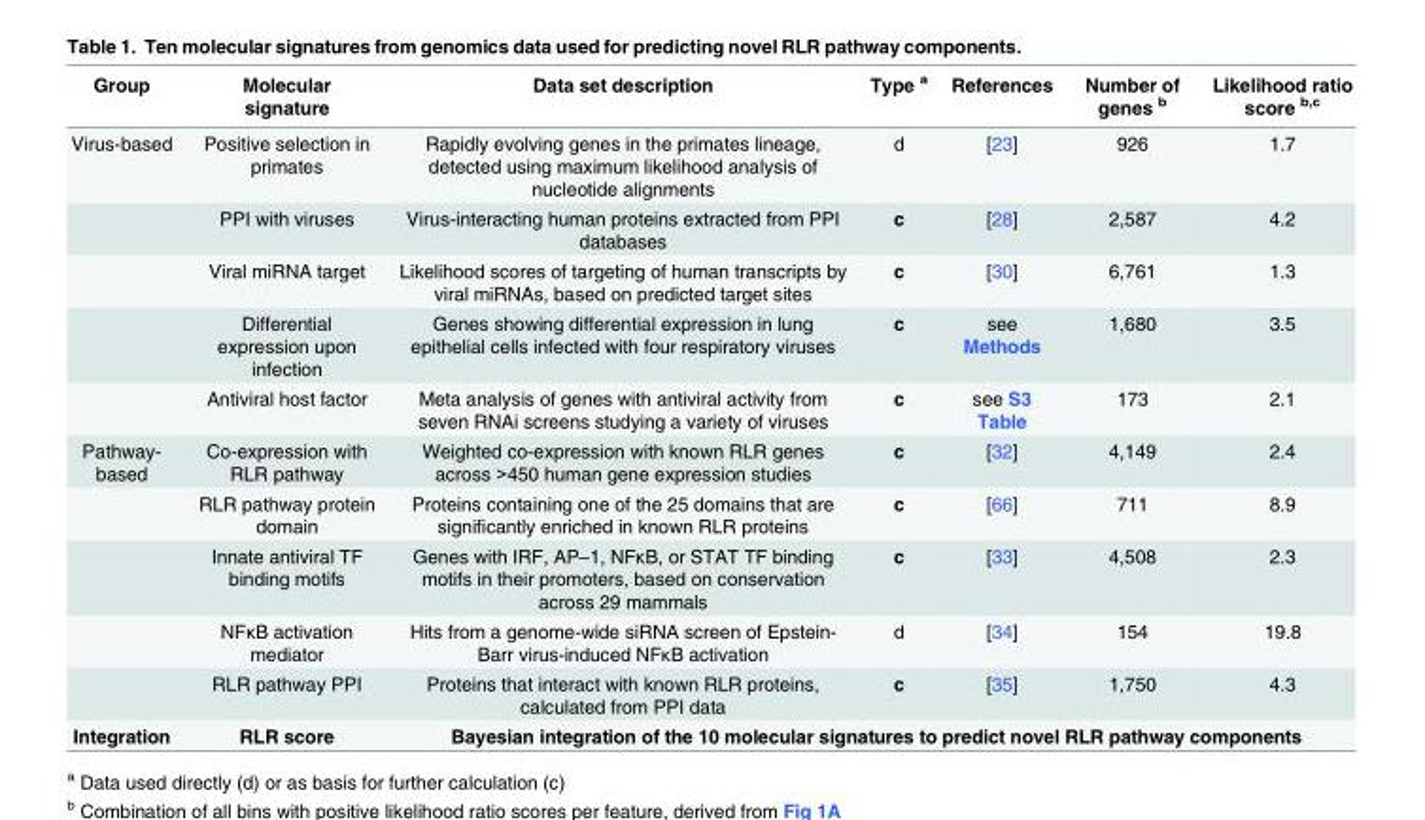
<table><thead><tr><td>Group</td><td>Molecular signature</td><td>Data set description</td><td>Type <sup>a</sup></td><td>References</td><td>Number of genes <sup>b</sup></td><td>Likelihood ratio score <sup>b,c</sup></td></tr></thead><tbody><tr><td rowspan="5">Virus-based</td><td>Positive selection in primates</td><td>Rapidly evolving genes in the primates lineage, detected using maximum likelihood analysis of nucleotide alignments</td><td>d</td><td>[23]</td><td>926</td><td>1.7</td></tr><tr><td>PPI with viruses</td><td>Virus-interacting human proteins extracted from PPI databases</td><td>c</td><td>[28]</td><td>2,587</td><td>4.2</td></tr><tr><td>Viral miRNA target</td><td>Likelihood scores of targeting of human transcripts by viral miRNAs, based on predicted target sites</td><td>c</td><td>[30]</td><td>6,761</td><td>1.3</td></tr><tr><td>Differential expression upon infection</td><td>Genes showing differential expression in lung epithelial cells infected with four respiratory viruses</td><td>c</td><td>see Methods</td><td>1,680</td><td>3.5</td></tr><tr><td>Antiviral host factor</td><td>Meta analysis of genes with antiviral activity from seven RNAi screens studying a variety of viruses</td><td>c</td><td>see S3 Table</td><td>173</td><td>2.1</td></tr><tr><td rowspan="5">Pathway- based</td><td>Co-expression with RLR pathway</td><td>Weighted co-expression with known RLR genes across &gt;450 human gene expression studies</td><td>c</td><td>[32]</td><td>4,149</td><td>2.4</td></tr><tr><td>RLR pathway protein domain</td><td>Proteins containing one of the 25 domains that are significantly enriched in known RLR proteins</td><td>c</td><td>[66]</td><td>711</td><td>8.9</td></tr><tr><td>Innate antiviral TF binding motifs</td><td>Genes with IRF, AP–1, NFκB, or STAT TF binding motifs in their promoters, based on conservation across 29 mammals</td><td>c</td><td>[33]</td><td>4,508</td><td>2.3</td></tr><tr><td>NFκB activation mediator</td><td>Hits from a genome-wide siRNA screen of Epstein- Barr virus-induced NFκB activation</td><td>d</td><td>[34]</td><td>154</td><td>19.8</td></tr><tr><td>RLR pathway PPI</td><td>Proteins that interact with known RLR proteins, calculated from PPI data</td><td>c</td><td>[35]</td><td>1,750</td><td>4.3</td></tr><tr><td>Integration</td><td>RLR score</td><td colspan="5">Bayesian integration of the 10 molecular signatures to predict novel RLR pathway components</td></tr></tbody></table>